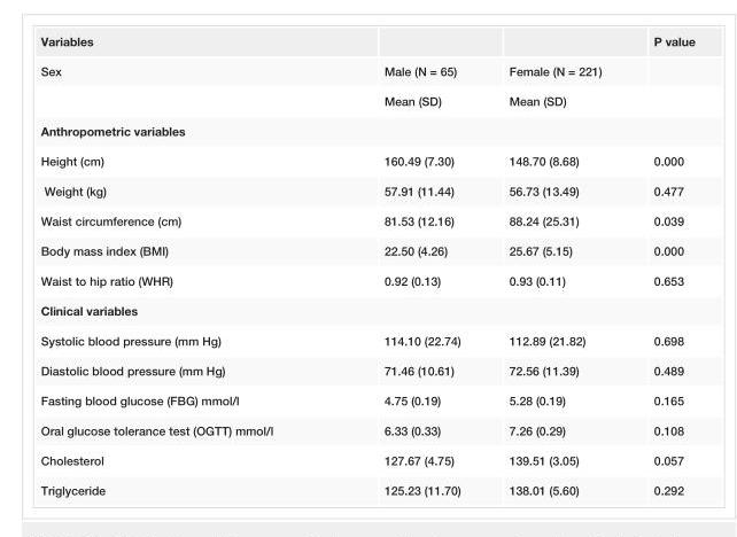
<table><tbody><tr><td>Variables</td><td></td><td></td><td>P value</td></tr><tr><td rowspan="2">Sex</td><td>Male (N = 65)</td><td>Female (N = 221)</td><td></td></tr><tr><td>Mean (SD)</td><td>Mean (SD)</td><td></td></tr><tr><td colspan="4">Anthropometric variables</td></tr><tr><td>Height (cm)</td><td>160.49 (7.30)</td><td>148.70 (8.68)</td><td>0.000</td></tr><tr><td>Weight (kg)</td><td>57.91 (11.44)</td><td>56.73 (13.49)</td><td>0.477</td></tr><tr><td>Waist circumference (cm)</td><td>81.53 (12.16)</td><td>88.24 (25.31)</td><td>0.039</td></tr><tr><td>Body mass index (BMI)</td><td>22.50 (4.26)</td><td>25.67 (5.15)</td><td>0.000</td></tr><tr><td>Waist to hip ratio (WHR)</td><td>0.92 (0.13)</td><td>0.93 (0.11)</td><td>0.653</td></tr><tr><td colspan="4">Clinical variables</td></tr><tr><td>Systolic blood pressure (mm Hg)</td><td>114.10 (22.74)</td><td>112.89 (21.82)</td><td>0.698</td></tr><tr><td>Diastolic blood pressure (mm Hg)</td><td>71.46 (10.61)</td><td>72.56 (11.39)</td><td>0.489</td></tr><tr><td>Fasting blood glucose (FBG) mmol/l</td><td>4.75 (0.19)</td><td>5.28 (0.19)</td><td>0.165</td></tr><tr><td>Oral glucose tolerance test (OGTT) mmol/l</td><td>6.33 (0.33)</td><td>7.26 (0.29)</td><td>0.108</td></tr><tr><td>Cholesterol</td><td>127.67 (4.75)</td><td>139.51 (3.05)</td><td>0.057</td></tr><tr><td>Triglyceride</td><td>125.23 (11.70)</td><td>138.01 (5.60)</td><td>0.292</td></tr></tbody></table>